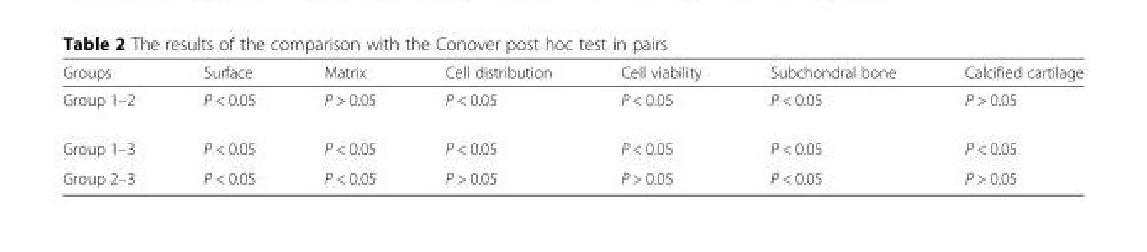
<table><thead><tr><td>Groups</td><td>Surface</td><td>Matrix</td><td>Cell distribution</td><td>Cell viability</td><td>Subchondral bone</td><td>Calcified cartilage</td></tr></thead><tbody><tr><td>Group 1–2</td><td>P &lt; 0.05</td><td>P &gt; 0.05</td><td>P &lt; 0.05</td><td>P &lt; 0.05</td><td>P &lt; 0.05</td><td>P &gt; 0.05</td></tr><tr><td>Group 1–3</td><td>P &lt; 0.05</td><td>P &lt; 0.05</td><td>P &lt; 0.05</td><td>P &lt; 0.05</td><td>P &lt; 0.05</td><td>P &lt; 0.05</td></tr><tr><td>Group 2–3</td><td>P &lt; 0.05</td><td>P &lt; 0.05</td><td>P &gt; 0.05</td><td>P &gt; 0.05</td><td>P &lt; 0.05</td><td>P &gt; 0.05</td></tr></tbody></table>